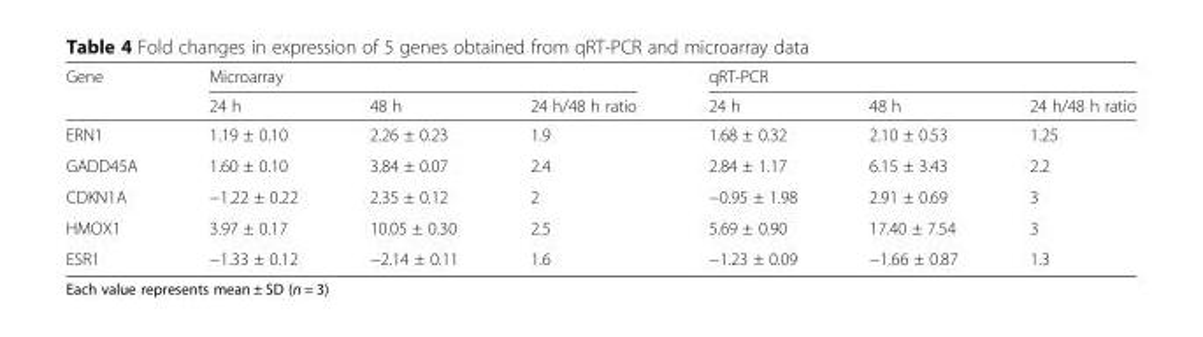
<table><thead><tr><td rowspan="2">Gene</td><td colspan="3">Microarray</td><td colspan="3">qRT-PCR</td></tr><tr><td>24 h</td><td>48 h</td><td>24 h/48 h ratio</td><td>24 h</td><td>48 h</td><td>24 h/48 h ratio</td></tr></thead><tbody><tr><td>ERN1</td><td>1.19 ± 0.10</td><td>2.26 ± 0.23</td><td>1.9</td><td>1.68 ± 0.32</td><td>2.10 ± 0.53</td><td>1.25</td></tr><tr><td>GADD45A</td><td>1.60 ± 0.10</td><td>3.84 ± 0.07</td><td>2.4</td><td>2.84 ± 1.17</td><td>6.15 ± 3.43</td><td>2.2</td></tr><tr><td>CDKN1A</td><td>−1.22 ± 0.22</td><td>2.35 ± 0.12</td><td>2</td><td>−0.95 ± 1.98</td><td>2.91 ± 0.69</td><td>3</td></tr><tr><td>HMOX1</td><td>3.97 ± 0.17</td><td>10.05 ± 0.30</td><td>2.5</td><td>5.69 ± 0.90</td><td>17.40 ± 7.54</td><td>3</td></tr><tr><td>ESR1</td><td>−1.33 ± 0.12</td><td>−2.14 ± 0.11</td><td>1.6</td><td>−1.23 ± 0.09</td><td>−1.66 ± 0.87</td><td>1.3</td></tr></tbody></table>